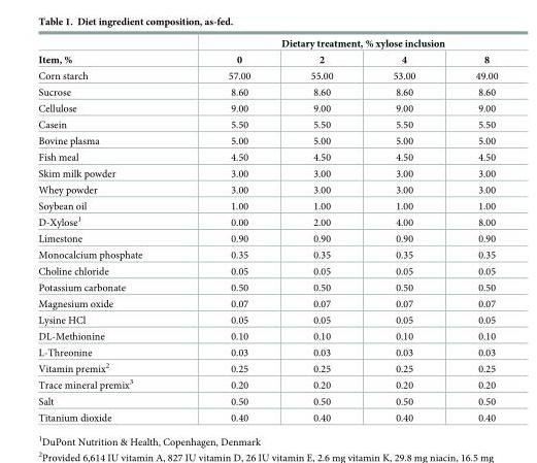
<table><thead><tr><td rowspan="2">Item, %</td><td colspan="4">Dietary treatment, % xylose inclusion</td></tr><tr><td>0</td><td>2</td><td>4</td><td>8</td></tr></thead><tbody><tr><td>Corn starch</td><td>57.00</td><td>55.00</td><td>53.00</td><td>49.00</td></tr><tr><td>Sucrose</td><td>8.60</td><td>8.60</td><td>8.60</td><td>8.60</td></tr><tr><td>Cellulose</td><td>9.00</td><td>9.00</td><td>9.00</td><td>9.00</td></tr><tr><td>Casein</td><td>5.50</td><td>5.50</td><td>5.50</td><td>5.50</td></tr><tr><td>Bovine plasma</td><td>5.00</td><td>5.00</td><td>5.00</td><td>5.00</td></tr><tr><td>Fish meal</td><td>4.50</td><td>4.50</td><td>4.50</td><td>4.50</td></tr><tr><td>Skim milk powder</td><td>3.00</td><td>3.00</td><td>3.00</td><td>3.00</td></tr><tr><td>Whey powder</td><td>3.00</td><td>3.00</td><td>3.00</td><td>3.00</td></tr><tr><td>Soybean oil</td><td>1.00</td><td>1.00</td><td>1.00</td><td>1.00</td></tr><tr><td>D-Xylose<sup>1</sup></td><td>0.00</td><td>2.00</td><td>4.00</td><td>8.00</td></tr><tr><td>Limestone</td><td>0.90</td><td>0.90</td><td>0.90</td><td>0.90</td></tr><tr><td>Monocalcium phosphate</td><td>0.35</td><td>0.35</td><td>0.35</td><td>0.35</td></tr><tr><td>Choline chloride</td><td>0.05</td><td>0.05</td><td>0.05</td><td>0.05</td></tr><tr><td>Potassium carbonate</td><td>0.50</td><td>0.50</td><td>0.50</td><td>0.50</td></tr><tr><td>Magnesium oxide</td><td>0.07</td><td>0.07</td><td>0.07</td><td>0.07</td></tr><tr><td>Lysine HCl</td><td>0.05</td><td>0.05</td><td>0.05</td><td>0.05</td></tr><tr><td>DL-Methionine</td><td>0.10</td><td>0.10</td><td>0.10</td><td>0.10</td></tr><tr><td>L-Threonine</td><td>0.03</td><td>0.03</td><td>0.03</td><td>0.03</td></tr><tr><td>Vitamin premix<sup>2</sup></td><td>0.25</td><td>0.25</td><td>0.25</td><td>0.25</td></tr><tr><td>Trace mineral premix<sup>3</sup></td><td>0.20</td><td>0.20</td><td>0.20</td><td>0.20</td></tr><tr><td>Salt</td><td>0.50</td><td>0.50</td><td>0.50</td><td>0.50</td></tr><tr><td>Titanium dioxide</td><td>0.40</td><td>0.40</td><td>0.40</td><td>0.40</td></tr></tbody></table>